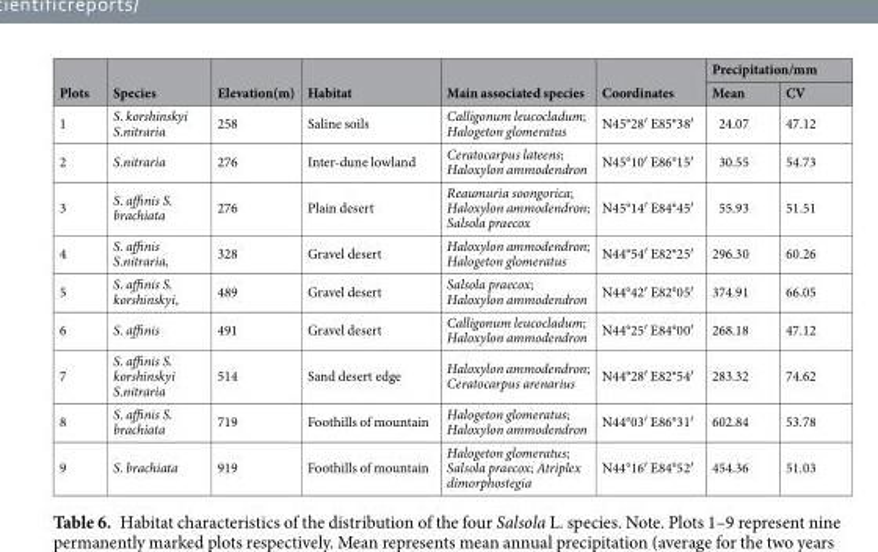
<table><thead><tr><td rowspan="2">Plots</td><td rowspan="2">Species</td><td rowspan="2">Elevation(m)</td><td rowspan="2">Habitat</td><td rowspan="2">Main associated species</td><td rowspan="2">Coordinates</td><td colspan="2">Precipitation/mm</td></tr><tr><td>Mean</td><td>CV</td></tr></thead><tbody><tr><td>1</td><td>S. korshinskyi S.nitraria</td><td>258</td><td>Saline soils</td><td>Calligonum leucocladum; Halogeton glomeratus</td><td>N45°28′ E85°38′</td><td>24.07</td><td>47.12</td></tr><tr><td>2</td><td>S.nitraria</td><td>276</td><td>Inter-dune lowland</td><td>Ceratocarpus lateens; Haloxylon ammodendron</td><td>N45°10′ E86°15′</td><td>30.55</td><td>54.73</td></tr><tr><td>3</td><td>S. affinis S. brachiata</td><td>276</td><td>Plain desert</td><td>Reaumuria soongorica; Haloxylon ammodendron; Salsola praecox</td><td>N45°14′ E84°45′</td><td>55.93</td><td>51.51</td></tr><tr><td>4</td><td>S. affinis S.nitraria,</td><td>328</td><td>Gravel desert</td><td>Haloxylon ammodendron; Halogeton glomeratus</td><td>N44°54′ E82°25′</td><td>296.30</td><td>60.26</td></tr><tr><td>5</td><td>S. affinis S. korshinskyi,</td><td>489</td><td>Gravel desert</td><td>Salsola praecox; Haloxylon ammodendron</td><td>N44°42′ E82°05′</td><td>374.91</td><td>66.05</td></tr><tr><td>6</td><td>S. affinis</td><td>491</td><td>Gravel desert</td><td>Calligonum leucocladum; Haloxylon ammodendron</td><td>N44°25′ E84°00′</td><td>268.18</td><td>47.12</td></tr><tr><td>7</td><td>S. affinis S. korshinskyi S.nitraria</td><td>514</td><td>Sand desert edge</td><td>Haloxylon ammodendron; Ceratocarpus arenarius</td><td>N44°28′ E82°54′</td><td>283.32</td><td>74.62</td></tr><tr><td>8</td><td>S. affinis S. brachiata</td><td>719</td><td>Foothills of mountain</td><td>Halogeton glomeratus; Haloxylon ammodendron</td><td>N44°03′ E86°31′</td><td>602.84</td><td>53.78</td></tr><tr><td>9</td><td>S. brachiata</td><td>919</td><td>Foothills of mountain</td><td>Halogeton glomeratus; Salsola praecox; Atriplex dimorphostegia</td><td>N44°16′ E84°52′</td><td>454.36</td><td>51.03</td></tr></tbody></table>